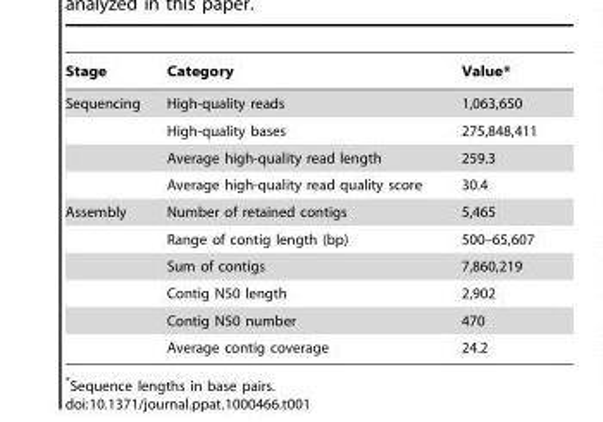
<table><thead><tr><td>Stage</td><td>Category</td><td>Value*</td></tr></thead><tbody><tr><td rowspan="4">Sequencing</td><td>High-quality reads</td><td>1,063,650</td></tr><tr><td>High-quality bases</td><td>275,848,411</td></tr><tr><td>Average high-quality read length</td><td>259.3</td></tr><tr><td>Average high-quality read quality score</td><td>30.4</td></tr><tr><td rowspan="6">Assembly</td><td>Number of retained contigs</td><td>5,465</td></tr><tr><td>Range of contig length (bp)</td><td>500–65,607</td></tr><tr><td>Sum of contigs</td><td>7,860,219</td></tr><tr><td>Contig N50 length</td><td>2,902</td></tr><tr><td>Contig N50 number</td><td>470</td></tr><tr><td>Average contig coverage</td><td>24.2</td></tr></tbody></table>